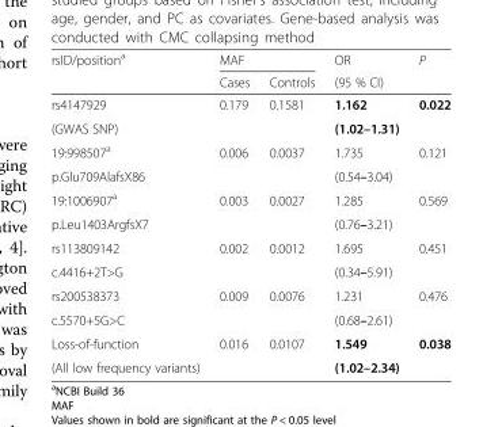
<table><thead><tr><td rowspan="2">rsID/position<sup>a</sup></td><td colspan="2">MAF</td><td rowspan="2">OR (95 % CI)</td><td rowspan="2">P</td></tr><tr><td>Cases</td><td>Controls</td></tr></thead><tbody><tr><td>rs4147929</td><td rowspan="2">0.179</td><td rowspan="2">0.1581</td><td>1.162</td><td rowspan="2">0.022</td></tr><tr><td>(GWAS SNP)</td><td>(1.02–1.31)</td></tr><tr><td>19:998507<sup>a</sup></td><td rowspan="2">0.006</td><td rowspan="2">0.0037</td><td>1.735</td><td rowspan="2">0.121</td></tr><tr><td>p.Glu709AlafsX86</td><td>(0.54–3.04)</td></tr><tr><td>19:1006907<sup>a</sup></td><td rowspan="2">0.003</td><td rowspan="2">0.0027</td><td>1.285</td><td rowspan="2">0.569</td></tr><tr><td>p.Leu1403ArgfsX7</td><td>(0.76–3.21)</td></tr><tr><td>rs113809142</td><td rowspan="2">0.002</td><td rowspan="2">0.0012</td><td>1.695</td><td rowspan="2">0.451</td></tr><tr><td>c.4416+2T&gt;G</td><td>(0.34–5.91)</td></tr><tr><td>rs200538373</td><td rowspan="2">0.009</td><td rowspan="2">0.0076</td><td>1.231</td><td rowspan="2">0.476</td></tr><tr><td>c.5570+5G&gt;C</td><td>(0.68–2.61)</td></tr><tr><td>Loss-of-function</td><td rowspan="2">0.016</td><td rowspan="2">0.0107</td><td>1.549</td><td rowspan="2">0.038</td></tr><tr><td>(All low frequency variants)</td><td>(1.02–2.34)</td></tr></tbody></table>